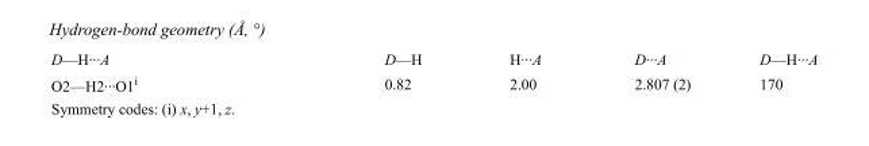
<table><tbody><tr><td>D—H···A</td><td>D—H</td><td>H···A</td><td>D···A</td><td>D—H···A</td></tr><tr><td>O2—H2···O1<sup>i</sup></td><td>0.82</td><td>2.00</td><td>2.807 (2)</td><td>170</td></tr></tbody></table>